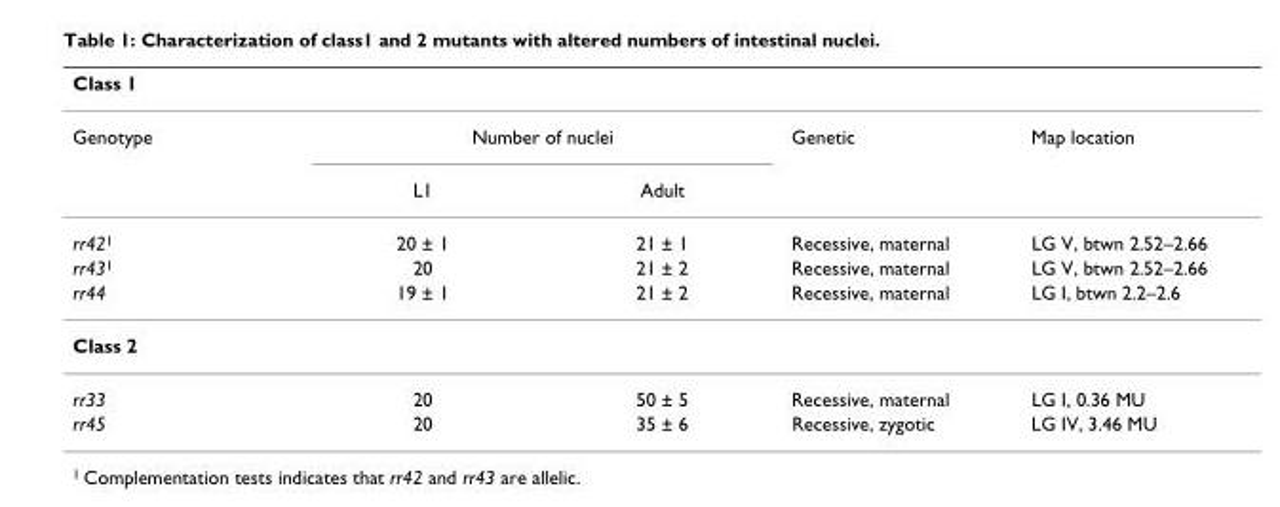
<table><thead><tr><td colspan="5">Class 1</td></tr><tr><td rowspan="2">Genotype</td><td colspan="2">Number of nuclei</td><td rowspan="2">Genetic</td><td rowspan="2">Map location</td></tr><tr><td>L1</td><td>Adult</td></tr></thead><tbody><tr><td>rr42<sup>1</sup></td><td>20 ± 1</td><td>21 ± 1</td><td>Recessive, maternal</td><td>LG V, btwn 2.52–2.66</td></tr><tr><td>rr43<sup>1</sup></td><td>20</td><td>21 ± 2</td><td>Recessive, maternal</td><td>LG V, btwn 2.52–2.66</td></tr><tr><td>rr44</td><td>19 ± 1</td><td>21 ± 2</td><td>Recessive, maternal</td><td>LG I, btwn 2.2–2.6</td></tr><tr><td colspan="5">Class 2</td></tr><tr><td>rr33</td><td>20</td><td>50 ± 5</td><td>Recessive, maternal</td><td>LG I, 0.36 MU</td></tr><tr><td>rr45</td><td>20</td><td>35 ± 6</td><td>Recessive, zygotic</td><td>LG IV, 3.46 MU</td></tr></tbody></table>